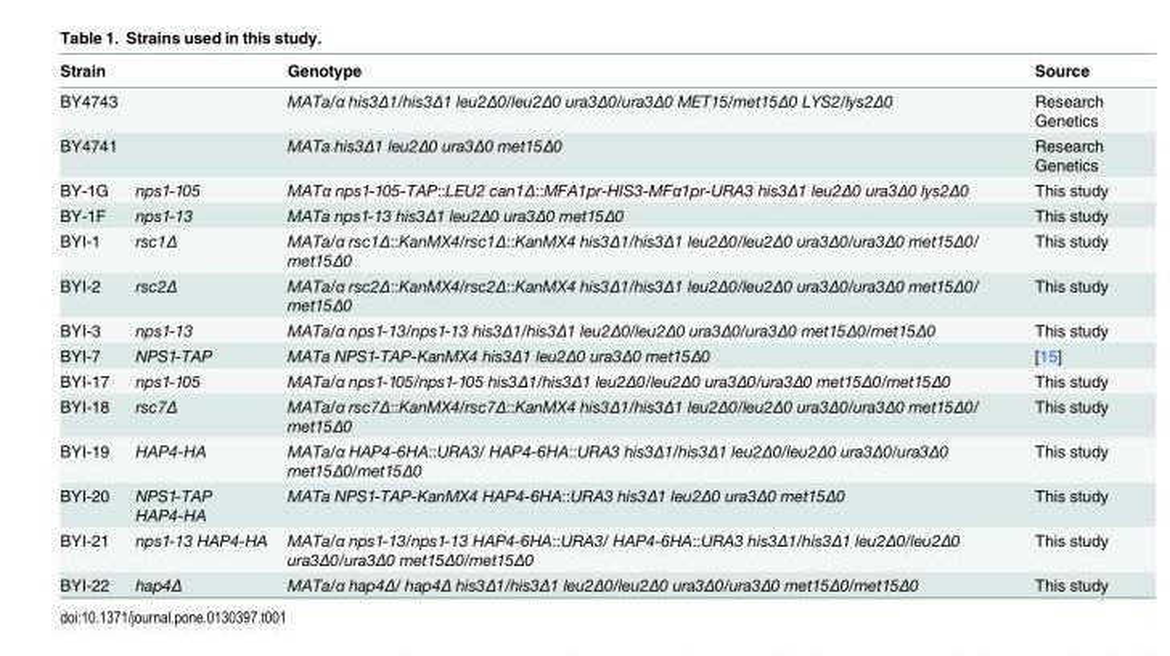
<table><thead><tr><td>Strain</td><td></td><td>Genotype</td><td>Source</td></tr></thead><tbody><tr><td>BY4743</td><td></td><td>MATa/α his3Δ1/his3Δ1 leu2Δ0/leu2Δ0 ura3Δ0/ura3Δ0 MET15/met15Δ0 LYS2/lys2Δ0</td><td>Research Genetics</td></tr><tr><td>BY4741</td><td></td><td>MATa his3Δ1 leu2Δ0 ura3Δ0 met15Δ0</td><td>Research Genetics</td></tr><tr><td>BY-1G</td><td>nps1-105</td><td>MATα nps1-105-TAP::LEU2 can1Δ::MFA1pr-HIS3-MFα1pr-URA3 his3Δ1 leu2Δ0 ura3Δ0 lys2Δ0</td><td>This study</td></tr><tr><td>BY-1F</td><td>nps1-13</td><td>MATa nps1-13 his3Δ1 leu2Δ0 ura3Δ0 met15Δ0</td><td>This study</td></tr><tr><td>BYI-1</td><td>rsc1Δ</td><td>MATa/α rsc1Δ::KanMX4/rsc1Δ::KanMX4 his3Δ1/his3Δ1 leu2Δ0/leu2Δ0 ura3Δ0/ura3Δ0 met15Δ0/ met15Δ0</td><td>This study</td></tr><tr><td>BYI-2</td><td>rsc2Δ</td><td>MATa/α rsc2Δ::KanMX4/rsc2Δ::KanMX4 his3Δ1/his3Δ1 leu2Δ0/leu2Δ0 ura3Δ0/ura3Δ0 met15Δ0/ met15Δ0</td><td>This study</td></tr><tr><td>BYI-3</td><td>nps1-13</td><td>MATa/α nps1-13/nps1-13 his3Δ1/his3Δ1 leu2Δ0/leu2Δ0 ura3Δ0/ura3Δ0 met15Δ0/met15Δ0</td><td>This study</td></tr><tr><td>BYI-7</td><td>NPS1-TAP</td><td>MATa NPS1-TAP-KanMX4 his3Δ1 leu2Δ0 ura3Δ0 met15Δ0</td><td>[15]</td></tr><tr><td>BYI-17</td><td>nps1-105</td><td>MATa/α nps1-105/nps1-105 his3Δ1/his3Δ1 leu2Δ0/leu2Δ0 ura3Δ0/ura3Δ0 met15Δ0/met15Δ0</td><td>This study</td></tr><tr><td>BYI-18</td><td>rsc7Δ</td><td>MATa/α rsc7Δ::KanMX4/rsc7Δ::KanMX4 his3Δ1/his3Δ1 leu2Δ0/leu2Δ0 ura3Δ0/ura3Δ0 met15Δ0/ met15Δ0</td><td>This study</td></tr><tr><td>BYI-19</td><td>HAP4-HA</td><td>MATa/α HAP4-6HA::URA3/ HAP4-6HA::URA3 his3Δ1/his3Δ1 leu2Δ0/leu2Δ0 ura3Δ0/ura3Δ0 met15Δ0/met15Δ0</td><td>This study</td></tr><tr><td>BYI-20</td><td>NPS1-TAP HAP4-HA</td><td>MATa NPS1-TAP-KanMX4 HAP4-6HA::URA3 his3Δ1 leu2Δ0 ura3Δ0 met15Δ0</td><td>This study</td></tr><tr><td>BYI-21</td><td>nps1-13 HAP4-HA</td><td>MATa/α nps1-13/nps1-13 HAP4-6HA::URA3/ HAP4-6HA::URA3 his3Δ1/his3Δ1 leu2Δ0/leu2Δ0 ura3Δ0/ura3Δ0 met15Δ0/met15Δ0</td><td>This study</td></tr><tr><td>BYI-22</td><td>hap4Δ</td><td>MATa/α hap4Δ/ hap4Δ his3Δ1/his3Δ1 leu2Δ0/leu2Δ0 ura3Δ0/ura3Δ0 met15Δ0/met15Δ0</td><td>This study</td></tr></tbody></table>